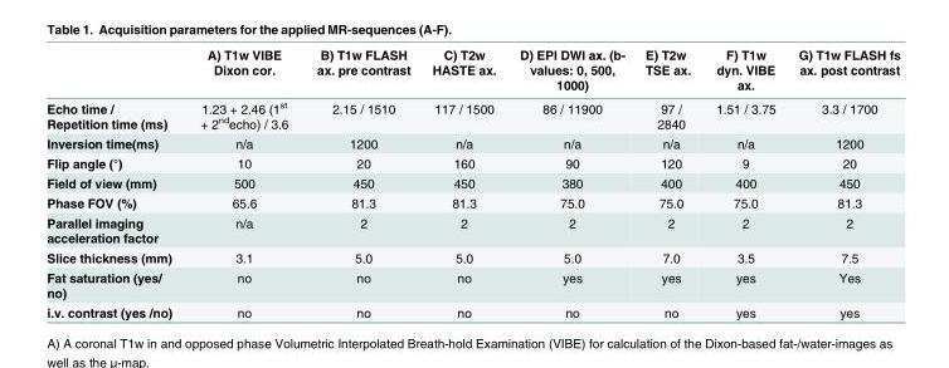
<table><thead><tr><td></td><td>A) T1w VIBE Dixon cor.</td><td>B) T1w FLASH ax. pre contrast</td><td>C) T2w HASTE ax.</td><td>D) EPI DWI ax. (b- values: 0, 500, 1000)</td><td>E) T2w TSE ax.</td><td>F) T1w dyn. VIBE ax.</td><td>G) T1w FLASH fs ax. post contrast</td></tr></thead><tbody><tr><td>Echo time / Repetition time (ms)</td><td>1.23 + 2.46 (1<sup>st</sup> + 2<sup>nd</sup>echo) / 3.6</td><td>2.15 / 1510</td><td>117 / 1500</td><td>86 / 11900</td><td>97 / 2840</td><td>1.51 / 3.75</td><td>3.3 / 1700</td></tr><tr><td>Inversion time(ms)</td><td>n/a</td><td>1200</td><td>n/a</td><td>n/a</td><td>n/a</td><td>n/a</td><td>1200</td></tr><tr><td>Flip angle (°)</td><td>10</td><td>20</td><td>160</td><td>90</td><td>120</td><td>9</td><td>20</td></tr><tr><td>Field of view (mm)</td><td>500</td><td>450</td><td>450</td><td>380</td><td>400</td><td>400</td><td>450</td></tr><tr><td>Phase FOV (%)</td><td>65.6</td><td>81.3</td><td>81.3</td><td>75.0</td><td>75.0</td><td>75.0</td><td>81.3</td></tr><tr><td>Parallel imaging acceleration factor</td><td>n/a</td><td>2</td><td>2</td><td>2</td><td>2</td><td>2</td><td>2</td></tr><tr><td>Slice thickness (mm)</td><td>3.1</td><td>5.0</td><td>5.0</td><td>5.0</td><td>7.0</td><td>3.5</td><td>7.5</td></tr><tr><td>Fat saturation (yes/ no)</td><td>no</td><td>no</td><td>no</td><td>yes</td><td>yes</td><td>yes</td><td>Yes</td></tr><tr><td>i.v. contrast (yes /no)</td><td>no</td><td>no</td><td>no</td><td>no</td><td>no</td><td>yes</td><td>yes</td></tr></tbody></table>